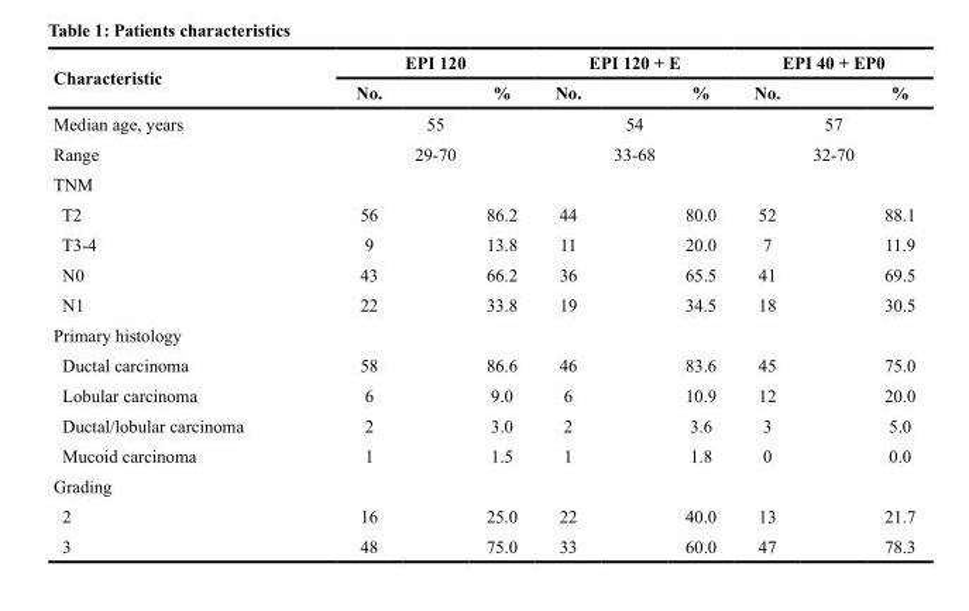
<table><thead><tr><td rowspan="2">Characteristic</td><td colspan="3">EPI 120</td><td colspan="3">EPI 120 + E</td><td colspan="3">EPI 40 + EP0</td></tr><tr><td>No.</td><td></td><td>%</td><td>No.</td><td></td><td>%</td><td>No.</td><td></td><td>%</td></tr></thead><tbody><tr><td>Median age, years</td><td></td><td>55</td><td></td><td></td><td>54</td><td></td><td></td><td>57</td><td></td></tr><tr><td>Range</td><td></td><td>29-70</td><td></td><td></td><td>33-68</td><td></td><td></td><td>32-70</td><td></td></tr><tr><td colspan="10">TNM</td></tr><tr><td>T2</td><td>56</td><td></td><td>86.2</td><td>44</td><td></td><td>80.0</td><td>52</td><td></td><td>88.1</td></tr><tr><td>T3-4</td><td>9</td><td></td><td>13.8</td><td>11</td><td></td><td>20.0</td><td>7</td><td></td><td>11.9</td></tr><tr><td>N0</td><td>43</td><td></td><td>66.2</td><td>36</td><td></td><td>65.5</td><td>41</td><td></td><td>69.5</td></tr><tr><td>N1</td><td>22</td><td></td><td>33.8</td><td>19</td><td></td><td>34.5</td><td>18</td><td></td><td>30.5</td></tr><tr><td colspan="10">Primary histology</td></tr><tr><td>Ductal carcinoma</td><td>58</td><td></td><td>86.6</td><td>46</td><td></td><td>83.6</td><td>45</td><td></td><td>75.0</td></tr><tr><td>Lobular carcinoma</td><td>6</td><td></td><td>9.0</td><td>6</td><td></td><td>10.9</td><td>12</td><td></td><td>20.0</td></tr><tr><td>Ductal/lobular carcinoma</td><td>2</td><td></td><td>3.0</td><td>2</td><td></td><td>3.6</td><td>3</td><td></td><td>5.0</td></tr><tr><td>Mucoid carcinoma</td><td>1</td><td></td><td>1.5</td><td>1</td><td></td><td>1.8</td><td>0</td><td></td><td>0.0</td></tr><tr><td colspan="10">Grading</td></tr><tr><td>2</td><td>16</td><td></td><td>25.0</td><td>22</td><td></td><td>40.0</td><td>13</td><td></td><td>21.7</td></tr><tr><td>3</td><td>48</td><td></td><td>75.0</td><td>33</td><td></td><td>60.0</td><td>47</td><td></td><td>78.3</td></tr></tbody></table>